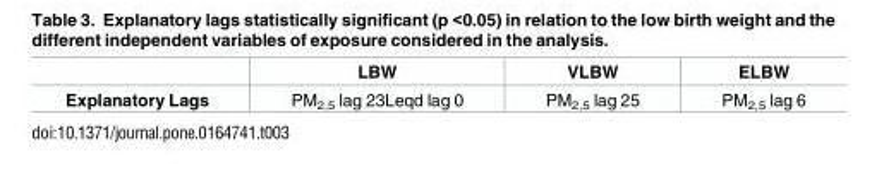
<table><thead><tr><td></td><td>LBW</td><td>VLBW</td><td>ELBW</td></tr></thead><tbody><tr><td>Explanatory Lags</td><td>PM<sub>2,5</sub> lag 23Leqd lag 0</td><td>PM<sub>2,5</sub> lag 25</td><td>PM<sub>2,5</sub> lag 6</td></tr></tbody></table>